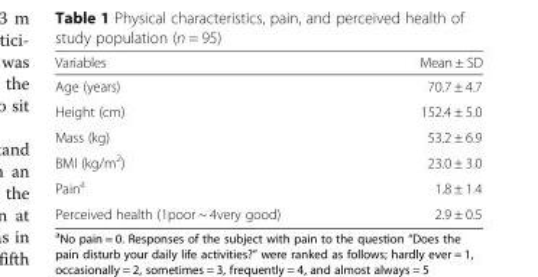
<table><thead><tr><td>Variables</td><td>Mean ± SD</td></tr></thead><tbody><tr><td>Age (years)</td><td>70.7 ± 4.7</td></tr><tr><td>Height (cm)</td><td>152.4 ± 5.0</td></tr><tr><td>Mass (kg)</td><td>53.2 ± 6.9</td></tr><tr><td>BMI (kg/m<sup>2</sup>)</td><td>23.0 ± 3.0</td></tr><tr><td>Pain<sup>a</sup></td><td>1.8 ± 1.4</td></tr><tr><td>Perceived health (1poor ~ 4very good)</td><td>2.9 ± 0.5</td></tr></tbody></table>